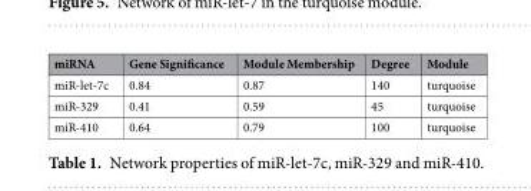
<table><thead><tr><td>miRNA</td><td>Gene Significance</td><td>Module Membership</td><td>Degree</td><td>Module</td></tr></thead><tbody><tr><td>miR-let-7c</td><td>0.84</td><td>0.87</td><td>140</td><td>turquoise</td></tr><tr><td>miR-329</td><td>0.41</td><td>0.59</td><td>45</td><td>turquoise</td></tr><tr><td>miR-410</td><td>0.64</td><td>0.79</td><td>100</td><td>turquoise</td></tr></tbody></table>